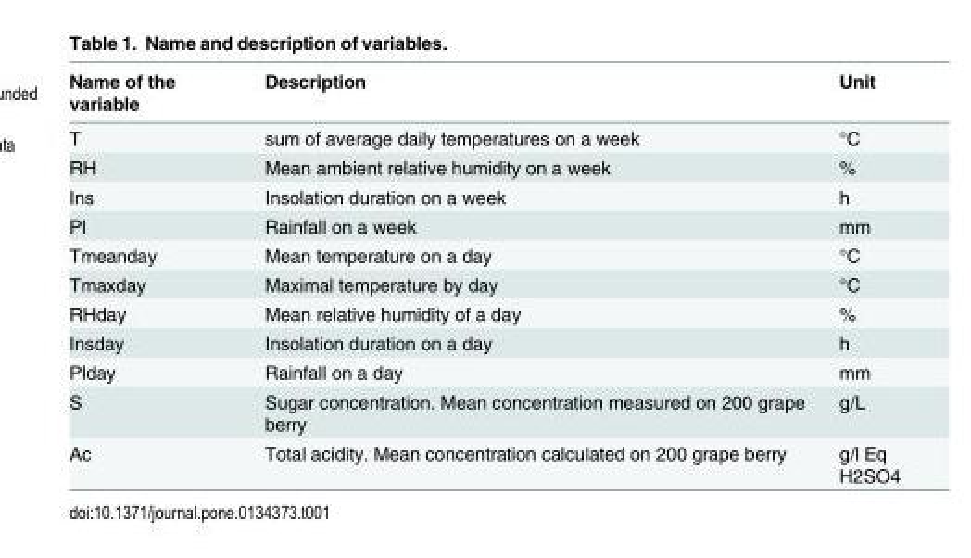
<table><thead><tr><td>Name of the variable</td><td>Description</td><td>Unit</td></tr></thead><tbody><tr><td>T</td><td>sum of average daily temperatures on a week</td><td>°C</td></tr><tr><td>RH</td><td>Mean ambient relative humidity on a week</td><td>%</td></tr><tr><td>Ins</td><td>Insolation duration on a week</td><td>h</td></tr><tr><td>Pl</td><td>Rainfall on a week</td><td>mm</td></tr><tr><td>Tmeanday</td><td>Mean temperature on a day</td><td>°C</td></tr><tr><td>Tmaxday</td><td>Maximal temperature by day</td><td>°C</td></tr><tr><td>RHday</td><td>Mean relative humidity of a day</td><td>%</td></tr><tr><td>Insday</td><td>Insolation duration on a day</td><td>h</td></tr><tr><td>Plday</td><td>Rainfall on a day</td><td>mm</td></tr><tr><td>S</td><td>Sugar concentration. Mean concentration measured on 200 grape berry</td><td>g/L</td></tr><tr><td>Ac</td><td>Total acidity. Mean concentration calculated on 200 grape berry</td><td>g/l Eq H2SO4</td></tr></tbody></table>